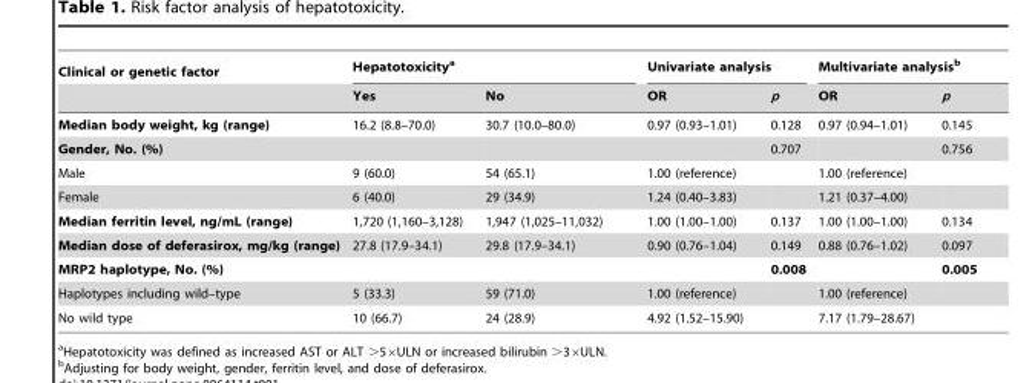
<table><thead><tr><td rowspan="2">Clinical or genetic factor</td><td colspan="2">Hepatotoxicity<sup>a</sup></td><td colspan="2">Univariate analysis</td><td colspan="2">Multivariate analysis<sup>b</sup></td></tr><tr><td>Yes</td><td>No</td><td>OR</td><td>p</td><td>OR</td><td>p</td></tr></thead><tbody><tr><td>Median body weight, kg (range)</td><td>16.2 (8.8–70.0)</td><td>30.7 (10.0–80.0)</td><td>0.97 (0.93–1.01)</td><td>0.128</td><td>0.97 (0.94–1.01)</td><td>0.145</td></tr><tr><td>Gender, No. (%)</td><td></td><td></td><td></td><td>0.707</td><td></td><td>0.756</td></tr><tr><td>Male</td><td>9 (60.0)</td><td>54 (65.1)</td><td>1.00 (reference)</td><td></td><td>1.00 (reference)</td><td></td></tr><tr><td>Female</td><td>6 (40.0)</td><td>29 (34.9)</td><td>1.24 (0.40–3.83)</td><td></td><td>1.21 (0.37–4.00)</td><td></td></tr><tr><td>Median ferritin level, ng/mL (range)</td><td>1,720 (1,160–3,128)</td><td>1,947 (1,025–11,032)</td><td>1.00 (1.00–1.00)</td><td>0.137</td><td>1.00 (1.00–1.00)</td><td>0.134</td></tr><tr><td>Median dose of deferasirox, mg/kg (range)</td><td>27.8 (17.9–34.1)</td><td>29.8 (17.9–34.1)</td><td>0.90 (0.76–1.04)</td><td>0.149</td><td>0.88 (0.76–1.02)</td><td>0.097</td></tr><tr><td>MRP2 haplotype, No. (%)</td><td></td><td></td><td></td><td>0.008</td><td></td><td>0.005</td></tr><tr><td>Haplotypes including wild–type</td><td>5 (33.3)</td><td>59 (71.0)</td><td>1.00 (reference)</td><td></td><td>1.00 (reference)</td><td></td></tr><tr><td>No wild type</td><td>10 (66.7)</td><td>24 (28.9)</td><td>4.92 (1.52–15.90)</td><td></td><td>7.17 (1.79–28.67)</td><td></td></tr></tbody></table>